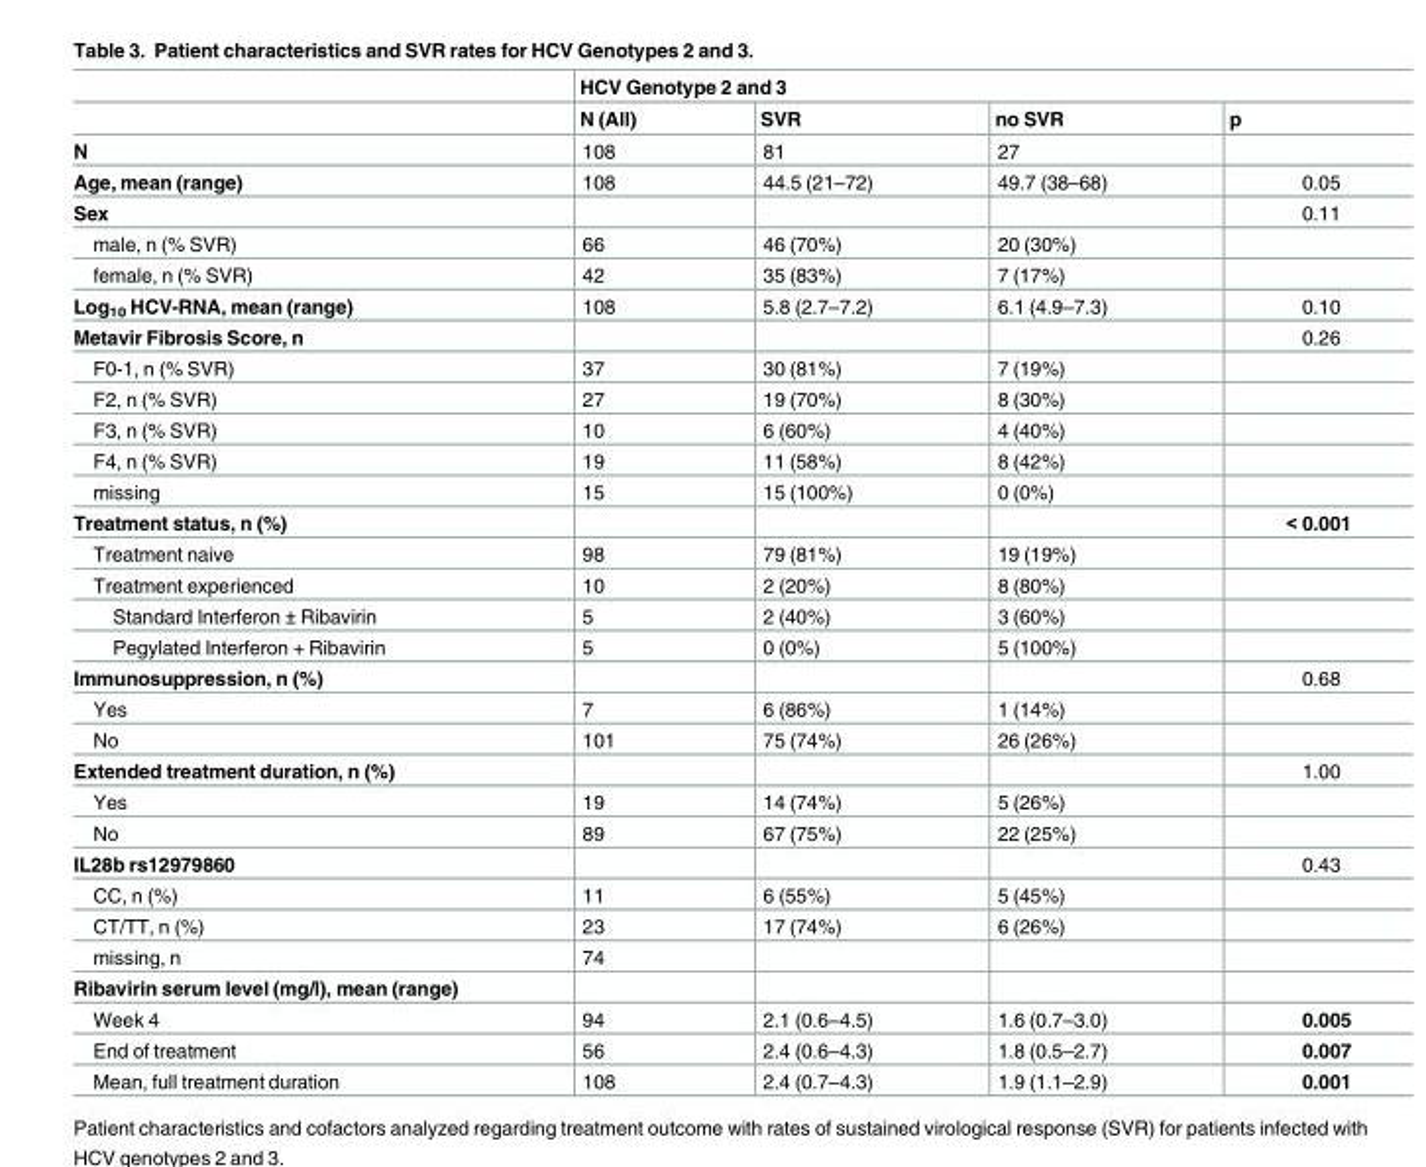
<table><thead><tr><td rowspan="2"></td><td colspan="4">HCV Genotype 2 and 3</td></tr><tr><td>N (All)</td><td>SVR</td><td>no SVR</td><td>p</td></tr></thead><tbody><tr><td>N</td><td>108</td><td>81</td><td>27</td><td></td></tr><tr><td>Age, mean (range)</td><td>108</td><td>44.5 (21–72)</td><td>49.7 (38–68)</td><td>0.05</td></tr><tr><td>Sex</td><td></td><td></td><td></td><td>0.11</td></tr><tr><td>male, n (% SVR)</td><td>66</td><td>46 (70%)</td><td>20 (30%)</td><td></td></tr><tr><td>female, n (% SVR)</td><td>42</td><td>35 (83%)</td><td>7 (17%)</td><td></td></tr><tr><td>Log<sub>10</sub> HCV-RNA, mean (range)</td><td>108</td><td>5.8 (2.7–7.2)</td><td>6.1 (4.9–7.3)</td><td>0.10</td></tr><tr><td>Metavir Fibrosis Score, n</td><td></td><td></td><td></td><td>0.26</td></tr><tr><td>F0-1, n (% SVR)</td><td>37</td><td>30 (81%)</td><td>7 (19%)</td><td></td></tr><tr><td>F2, n (% SVR)</td><td>27</td><td>19 (70%)</td><td>8 (30%)</td><td></td></tr><tr><td>F3, n (% SVR)</td><td>10</td><td>6 (60%)</td><td>4 (40%)</td><td></td></tr><tr><td>F4, n (% SVR)</td><td>19</td><td>11 (58%)</td><td>8 (42%)</td><td></td></tr><tr><td>missing</td><td>15</td><td>15 (100%)</td><td>0 (0%)</td><td></td></tr><tr><td>Treatment status, n (%)</td><td></td><td></td><td></td><td>&lt; 0.001</td></tr><tr><td>Treatment naive</td><td>98</td><td>79 (81%)</td><td>19 (19%)</td><td></td></tr><tr><td>Treatment experienced</td><td>10</td><td>2 (20%)</td><td>8 (80%)</td><td></td></tr><tr><td>Standard Interferon ± Ribavirin</td><td>5</td><td>2 (40%)</td><td>3 (60%)</td><td></td></tr><tr><td>Pegylated Interferon + Ribavirin</td><td>5</td><td>0 (0%)</td><td>5 (100%)</td><td></td></tr><tr><td>Immunosuppression, n (%)</td><td></td><td></td><td></td><td>0.68</td></tr><tr><td>Yes</td><td>7</td><td>6 (86%)</td><td>1 (14%)</td><td></td></tr><tr><td>No</td><td>101</td><td>75 (74%)</td><td>26 (26%)</td><td></td></tr><tr><td>Extended treatment duration, n (%)</td><td></td><td></td><td></td><td>1.00</td></tr><tr><td>Yes</td><td>19</td><td>14 (74%)</td><td>5 (26%)</td><td></td></tr><tr><td>No</td><td>89</td><td>67 (75%)</td><td>22 (25%)</td><td></td></tr><tr><td>IL28b rs12979860</td><td></td><td></td><td></td><td>0.43</td></tr><tr><td>CC, n (%)</td><td>11</td><td>6 (55%)</td><td>5 (45%)</td><td></td></tr><tr><td>CT/TT, n (%)</td><td>23</td><td>17 (74%)</td><td>6 (26%)</td><td></td></tr><tr><td>missing, n</td><td>74</td><td></td><td></td><td></td></tr><tr><td colspan="5">Ribavirin serum level (mg/l), mean (range)</td></tr><tr><td>Week 4</td><td>94</td><td>2.1 (0.6–4.5)</td><td>1.6 (0.7–3.0)</td><td>0.005</td></tr><tr><td>End of treatment</td><td>56</td><td>2.4 (0.6–4.3)</td><td>1.8 (0.5–2.7)</td><td>0.007</td></tr><tr><td>Mean, full treatment duration</td><td>108</td><td>2.4 (0.7–4.3)</td><td>1.9 (1.1–2.9)</td><td>0.001</td></tr></tbody></table>